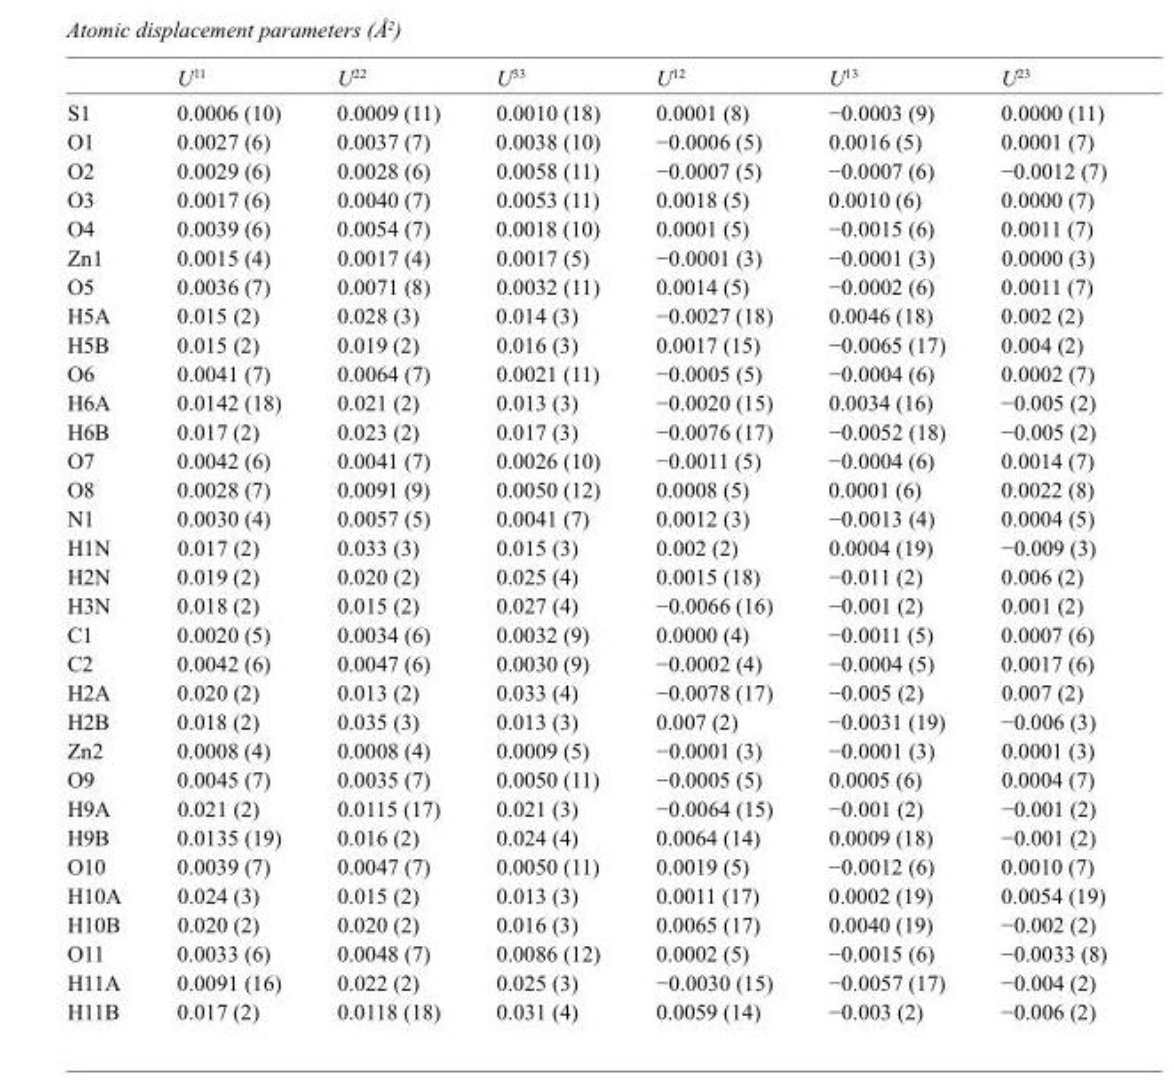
<table><thead><tr><td></td><td>U<sup>11</sup></td><td>U<sup>22</sup></td><td>U<sup>33</sup></td><td>U<sup>12</sup></td><td>U<sup>13</sup></td><td>U<sup>23</sup></td></tr></thead><tbody><tr><td>S1</td><td>0.0006 (10)</td><td>0.0009 (11)</td><td>0.0010 (18)</td><td>0.0001 (8)</td><td>−0.0003 (9)</td><td>0.0000 (11)</td></tr><tr><td>O1</td><td>0.0027 (6)</td><td>0.0037 (7)</td><td>0.0038 (10)</td><td>−0.0006 (5)</td><td>0.0016 (5)</td><td>0.0001 (7)</td></tr><tr><td>O2</td><td>0.0029 (6)</td><td>0.0028 (6)</td><td>0.0058 (11)</td><td>−0.0007 (5)</td><td>−0.0007 (6)</td><td>−0.0012 (7)</td></tr><tr><td>O3</td><td>0.0017 (6)</td><td>0.0040 (7)</td><td>0.0053 (11)</td><td>0.0018 (5)</td><td>0.0010 (6)</td><td>0.0000 (7)</td></tr><tr><td>O4</td><td>0.0039 (6)</td><td>0.0054 (7)</td><td>0.0018 (10)</td><td>0.0001 (5)</td><td>−0.0015 (6)</td><td>0.0011 (7)</td></tr><tr><td>Zn1</td><td>0.0015 (4)</td><td>0.0017 (4)</td><td>0.0017 (5)</td><td>−0.0001 (3)</td><td>−0.0001 (3)</td><td>0.0000 (3)</td></tr><tr><td>O5</td><td>0.0036 (7)</td><td>0.0071 (8)</td><td>0.0032 (11)</td><td>0.0014 (5)</td><td>−0.0002 (6)</td><td>0.0011 (7)</td></tr><tr><td>H5A</td><td>0.015 (2)</td><td>0.028 (3)</td><td>0.014 (3)</td><td>−0.0027 (18)</td><td>0.0046 (18)</td><td>0.002 (2)</td></tr><tr><td>H5B</td><td>0.015 (2)</td><td>0.019 (2)</td><td>0.016 (3)</td><td>0.0017 (15)</td><td>−0.0065 (17)</td><td>0.004 (2)</td></tr><tr><td>O6</td><td>0.0041 (7)</td><td>0.0064 (7)</td><td>0.0021 (11)</td><td>−0.0005 (5)</td><td>−0.0004 (6)</td><td>0.0002 (7)</td></tr><tr><td>H6A</td><td>0.0142 (18)</td><td>0.021 (2)</td><td>0.013 (3)</td><td>−0.0020 (15)</td><td>0.0034 (16)</td><td>−0.005 (2)</td></tr><tr><td>H6B</td><td>0.017 (2)</td><td>0.023 (2)</td><td>0.017 (3)</td><td>−0.0076 (17)</td><td>−0.0052 (18)</td><td>−0.005 (2)</td></tr><tr><td>O7</td><td>0.0042 (6)</td><td>0.0041 (7)</td><td>0.0026 (10)</td><td>−0.0011 (5)</td><td>−0.0004 (6)</td><td>0.0014 (7)</td></tr><tr><td>O8</td><td>0.0028 (7)</td><td>0.0091 (9)</td><td>0.0050 (12)</td><td>0.0008 (5)</td><td>0.0001 (6)</td><td>0.0022 (8)</td></tr><tr><td>N1</td><td>0.0030 (4)</td><td>0.0057 (5)</td><td>0.0041 (7)</td><td>0.0012 (3)</td><td>−0.0013 (4)</td><td>0.0004 (5)</td></tr><tr><td>H1N</td><td>0.017 (2)</td><td>0.033 (3)</td><td>0.015 (3)</td><td>0.002 (2)</td><td>0.0004 (19)</td><td>−0.009 (3)</td></tr><tr><td>H2N</td><td>0.019 (2)</td><td>0.020 (2)</td><td>0.025 (4)</td><td>0.0015 (18)</td><td>−0.011 (2)</td><td>0.006 (2)</td></tr><tr><td>H3N</td><td>0.018 (2)</td><td>0.015 (2)</td><td>0.027 (4)</td><td>−0.0066 (16)</td><td>−0.001 (2)</td><td>0.001 (2)</td></tr><tr><td>C1</td><td>0.0020 (5)</td><td>0.0034 (6)</td><td>0.0032 (9)</td><td>0.0000 (4)</td><td>−0.0011 (5)</td><td>0.0007 (6)</td></tr><tr><td>C2</td><td>0.0042 (6)</td><td>0.0047 (6)</td><td>0.0030 (9)</td><td>−0.0002 (4)</td><td>−0.0004 (5)</td><td>0.0017 (6)</td></tr><tr><td>H2A</td><td>0.020 (2)</td><td>0.013 (2)</td><td>0.033 (4)</td><td>−0.0078 (17)</td><td>−0.005 (2)</td><td>0.007 (2)</td></tr><tr><td>H2B</td><td>0.018 (2)</td><td>0.035 (3)</td><td>0.013 (3)</td><td>0.007 (2)</td><td>−0.0031 (19)</td><td>−0.006 (3)</td></tr><tr><td>Zn2</td><td>0.0008 (4)</td><td>0.0008 (4)</td><td>0.0009 (5)</td><td>−0.0001 (3)</td><td>−0.0001 (3)</td><td>0.0001 (3)</td></tr><tr><td>O9</td><td>0.0045 (7)</td><td>0.0035 (7)</td><td>0.0050 (11)</td><td>−0.0005 (5)</td><td>0.0005 (6)</td><td>0.0004 (7)</td></tr><tr><td>H9A</td><td>0.021 (2)</td><td>0.0115 (17)</td><td>0.021 (3)</td><td>−0.0064 (15)</td><td>−0.001 (2)</td><td>−0.001 (2)</td></tr><tr><td>H9B</td><td>0.0135 (19)</td><td>0.016 (2)</td><td>0.024 (4)</td><td>0.0064 (14)</td><td>0.0009 (18)</td><td>−0.001 (2)</td></tr><tr><td>O10</td><td>0.0039 (7)</td><td>0.0047 (7)</td><td>0.0050 (11)</td><td>0.0019 (5)</td><td>−0.0012 (6)</td><td>0.0010 (7)</td></tr><tr><td>H10A</td><td>0.024 (3)</td><td>0.015 (2)</td><td>0.013 (3)</td><td>0.0011 (17)</td><td>0.0002 (19)</td><td>0.0054 (19)</td></tr><tr><td>H10B</td><td>0.020 (2)</td><td>0.020 (2)</td><td>0.016 (3)</td><td>0.0065 (17)</td><td>0.0040 (19)</td><td>−0.002 (2)</td></tr><tr><td>O11</td><td>0.0033 (6)</td><td>0.0048 (7)</td><td>0.0086 (12)</td><td>0.0002 (5)</td><td>−0.0015 (6)</td><td>−0.0033 (8)</td></tr><tr><td>H11A</td><td>0.0091 (16)</td><td>0.022 (2)</td><td>0.025 (3)</td><td>−0.0030 (15)</td><td>−0.0057 (17)</td><td>−0.004 (2)</td></tr><tr><td>H11B</td><td>0.017 (2)</td><td>0.0118 (18)</td><td>0.031 (4)</td><td>0.0059 (14)</td><td>−0.003 (2)</td><td>−0.006 (2)</td></tr></tbody></table>